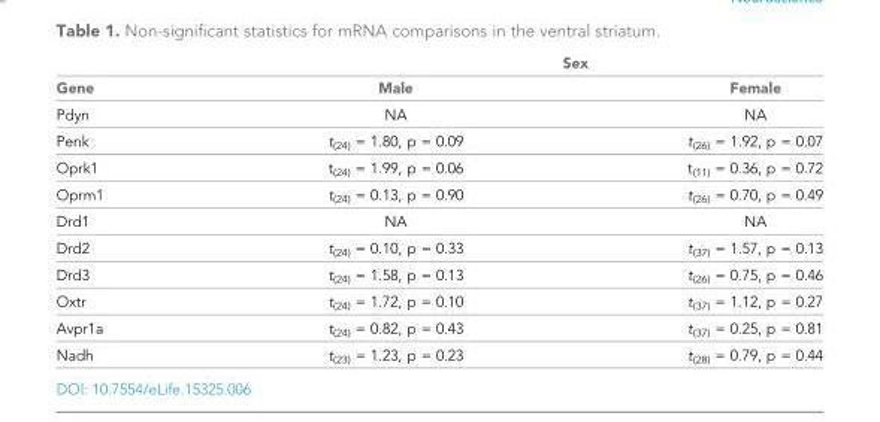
<table><thead><tr><td rowspan="2">Gene</td><td colspan="2">Sex</td></tr><tr><td>Male</td><td>Female</td></tr></thead><tbody><tr><td>Pdyn</td><td>NA</td><td>NA</td></tr><tr><td>Penk</td><td>t<sub>(24)</sub> = 1.80, p = 0.09</td><td>t<sub>(26)</sub> = 1.92, p = 0.07</td></tr><tr><td>Oprk1</td><td>t<sub>(24)</sub> = 1.99, p = 0.06</td><td>t<sub>(11)</sub> = 0.36, p = 0.72</td></tr><tr><td>Oprm1</td><td>t<sub>(24)</sub> = 0.13, p = 0.90</td><td>t<sub>(26)</sub> = 0.70, p = 0.49</td></tr><tr><td>Drd1</td><td>NA</td><td>NA</td></tr><tr><td>Drd2</td><td>t<sub>(24)</sub> = 0.10, p = 0.33</td><td>t<sub>(37)</sub> = 1.57, p = 0.13</td></tr><tr><td>Drd3</td><td>t<sub>(24)</sub> = 1.58, p = 0.13</td><td>t<sub>(26)</sub> = 0.75, p = 0.46</td></tr><tr><td>Oxtr</td><td>t<sub>(24)</sub> = 1.72, p = 0.10</td><td>t<sub>(37)</sub> = 1.12, p = 0.27</td></tr><tr><td>Avpr1a</td><td>t<sub>(24)</sub> = 0.82, p = 0.43</td><td>t<sub>(37)</sub> = 0.25, p = 0.81</td></tr><tr><td>Nadh</td><td>t<sub>(23)</sub> = 1.23, p = 0.23</td><td>t<sub>(28)</sub> = 0.79, p = 0.44</td></tr></tbody></table>